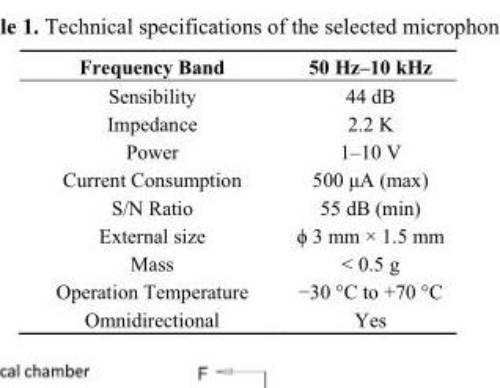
<table><thead><tr><td>Frequency Band</td><td>50 Hz–10 kHz</td></tr></thead><tbody><tr><td>Sensibility</td><td>44 dB</td></tr><tr><td>Impedance</td><td>2.2 K</td></tr><tr><td>Power</td><td>1–10 V</td></tr><tr><td>Current Consumption</td><td>500 μA (max)</td></tr><tr><td>S/N Ratio</td><td>55 dB (min)</td></tr><tr><td>External size</td><td>ϕ 3 mm × 1.5 mm</td></tr><tr><td>Mass</td><td>&lt; 0.5 g</td></tr><tr><td>Operation Temperature</td><td>−30 °C to +70 °C</td></tr><tr><td>Omnidirectional</td><td>Yes</td></tr></tbody></table>